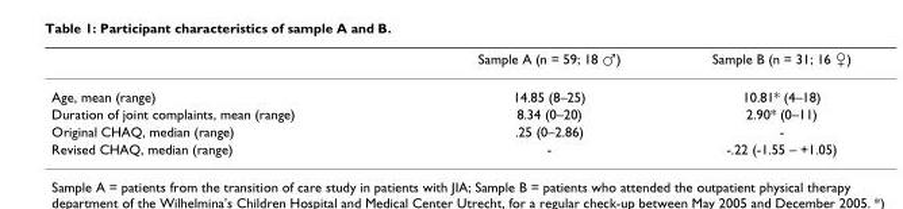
<table><thead><tr><td></td><td>Sample A (n = 59; 18 ♂)</td><td>Sample B (n = 31; 16 ♀)</td></tr></thead><tbody><tr><td>Age, mean (range)</td><td>14.85 (8–25)</td><td>10.81* (4–18)</td></tr><tr><td>Duration of joint complaints, mean (range)</td><td>8.34 (0–20)</td><td>2.90* (0–11)</td></tr><tr><td>Original CHAQ, median (range)</td><td>.25 (0–2.86)</td><td>-</td></tr><tr><td>Revised CHAQ, median (range)</td><td>-</td><td>-.22 (-1.55 – +1.05)</td></tr></tbody></table>